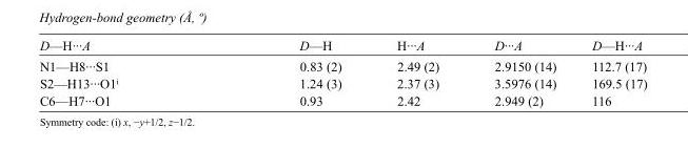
<table><tbody><tr><td>D—H···A</td><td>D—H</td><td>H···A</td><td>D···A</td><td>D—H···A</td></tr><tr><td>N1—H8···S1</td><td>0.83 (2)</td><td>2.49 (2)</td><td>2.9150 (14)</td><td>112.7 (17)</td></tr><tr><td>S2—H13···O1<sup>i</sup></td><td>1.24 (3)</td><td>2.37 (3)</td><td>3.5976 (14)</td><td>169.5 (17)</td></tr><tr><td>C6—H7···O1</td><td>0.93</td><td>2.42</td><td>2.949 (2)</td><td>116</td></tr></tbody></table>